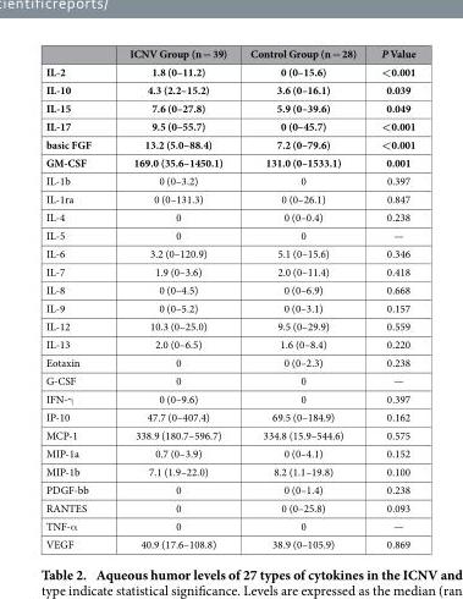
<table><thead><tr><td></td><td>ICNV Group (n = 39)</td><td>Control Group (n = 28)</td><td>P Value</td></tr></thead><tbody><tr><td>IL-2</td><td>1.8 (0–11.2)</td><td>0 (0–15.6)</td><td>&lt; 0.001</td></tr><tr><td>IL-10</td><td>4.3 (2.2–15.2)</td><td>3.6 (0–16.1)</td><td>0.039</td></tr><tr><td>IL-15</td><td>7.6 (0–27.8)</td><td>5.9 (0–39.6)</td><td>0.049</td></tr><tr><td>IL-17</td><td>9.5 (0–55.7)</td><td>0 (0–45.7)</td><td>&lt; 0.001</td></tr><tr><td>basic FGF</td><td>13.2 (5.0–88.4)</td><td>7.2 (0–79.6)</td><td>&lt; 0.001</td></tr><tr><td>GM-CSF</td><td>169.0 (35.6–1450.1)</td><td>131.0 (0–1533.1)</td><td>0.001</td></tr><tr><td>IL-1b</td><td>0 (0–3.2)</td><td>0</td><td>0.397</td></tr><tr><td>IL-1ra</td><td>0 (0–131.3)</td><td>0 (0–26.1)</td><td>0.847</td></tr><tr><td>IL-4</td><td>0</td><td>0 (0–0.4)</td><td>0.238</td></tr><tr><td>IL-5</td><td>0</td><td>0</td><td>—</td></tr><tr><td>IL-6</td><td>3.2 (0–120.9)</td><td>5.1 (0–15.6)</td><td>0.346</td></tr><tr><td>IL-7</td><td>1.9 (0–3.6)</td><td>2.0 (0–11.4)</td><td>0.418</td></tr><tr><td>IL-8</td><td>0 (0–4.5)</td><td>0 (0–6.9)</td><td>0.668</td></tr><tr><td>IL-9</td><td>0 (0–5.2)</td><td>0 (0–3.1)</td><td>0.157</td></tr><tr><td>IL-12</td><td>10.3 (0–25.0)</td><td>9.5 (0–29.9)</td><td>0.559</td></tr><tr><td>IL-13</td><td>2.0 (0–6.5)</td><td>1.6 (0–8.4)</td><td>0.220</td></tr><tr><td>Eotaxin</td><td>0</td><td>0 (0–2.3)</td><td>0.238</td></tr><tr><td>G-CSF</td><td>0</td><td>0</td><td>—</td></tr><tr><td>IFN-γ</td><td>0 (0–9.6)</td><td>0</td><td>0.397</td></tr><tr><td>IP-10</td><td>47.7 (0–407.4)</td><td>69.5 (0–184.9)</td><td>0.162</td></tr><tr><td>MCP-1</td><td>338.9 (180.7–596.7)</td><td>334.8 (15.9–544.6)</td><td>0.575</td></tr><tr><td>MIP-1a</td><td>0.7 (0–3.9)</td><td>0 (0–4.1)</td><td>0.152</td></tr><tr><td>MIP-1b</td><td>7.1 (1.9–22.0)</td><td>8.2 (1.1–19.8)</td><td>0.100</td></tr><tr><td>PDGF-bb</td><td>0</td><td>0 (0–1.4)</td><td>0.238</td></tr><tr><td>RANTES</td><td>0</td><td>0 (0–25.8)</td><td>0.093</td></tr><tr><td>TNF-α</td><td>0</td><td>0</td><td>—</td></tr><tr><td>VEGF</td><td>40.9 (17.6–108.8)</td><td>38.9 (0–105.9)</td><td>0.869</td></tr></tbody></table>